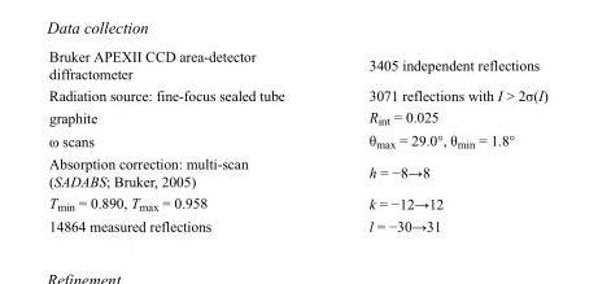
<table><tbody><tr><td>Bruker APEXII CCD area-detector diffractometer</td><td>3405 independent reflections</td></tr><tr><td>Radiation source: fine-focus sealed tube</td><td>3071 reflections with I &gt; 2σ(I)</td></tr><tr><td>graphite</td><td>R<sub>int</sub> = 0.025</td></tr><tr><td>ω scans</td><td>θ<sub>max</sub> = 29.0°, θ<sub>min</sub> = 1.8°</td></tr><tr><td>Absorption correction: multi-scan (SADABS; Bruker, 2005)</td><td>h = −8→8</td></tr><tr><td>T<sub>min</sub> = 0.890, T<sub>max</sub> = 0.958</td><td>k = −12→12</td></tr><tr><td>14864 measured reflections</td><td>l = −30→31</td></tr></tbody></table>